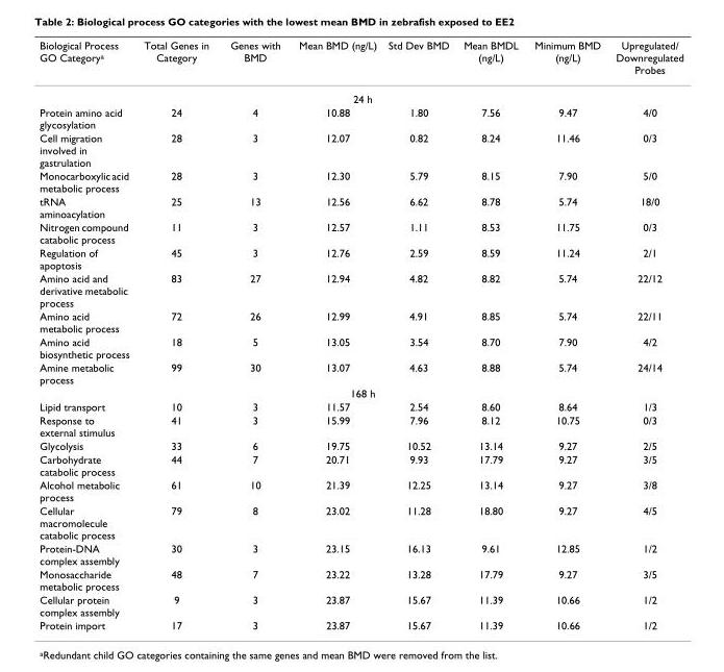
<table><thead><tr><td>Biological Process GO Category<sup>a</sup></td><td>Total Genes in Category</td><td>Genes with BMD</td><td>Mean BMD (ng/L)</td><td>Std Dev BMD</td><td>Mean BMDL (ng/L)</td><td>Minimum BMD (ng/L)</td><td>Upregulated/ Downregulated Probes</td></tr></thead><tbody><tr><td colspan="8">24 h</td></tr><tr><td>Protein amino acid glycosylation</td><td>24</td><td>4</td><td>10.88</td><td>1.80</td><td>7.56</td><td>9.47</td><td>4/0</td></tr><tr><td>Cell migration involved in gastrulation</td><td>28</td><td>3</td><td>12.07</td><td>0.82</td><td>8.24</td><td>11.46</td><td>0/3</td></tr><tr><td>Monocarboxylic acid metabolic process</td><td>28</td><td>3</td><td>12.30</td><td>5.79</td><td>8.15</td><td>7.90</td><td>5/0</td></tr><tr><td>tRNA aminoacylation</td><td>25</td><td>13</td><td>12.56</td><td>6.62</td><td>8.78</td><td>5.74</td><td>18/0</td></tr><tr><td>Nitrogen compound catabolic process</td><td>11</td><td>3</td><td>12.57</td><td>1.11</td><td>8.53</td><td>11.75</td><td>0/3</td></tr><tr><td>Regulation of apoptosis</td><td>45</td><td>3</td><td>12.76</td><td>2.59</td><td>8.59</td><td>11.24</td><td>2/1</td></tr><tr><td>Amino acid and derivative metabolic process</td><td>83</td><td>27</td><td>12.94</td><td>4.82</td><td>8.82</td><td>5.74</td><td>22/12</td></tr><tr><td>Amino acid metabolic process</td><td>72</td><td>26</td><td>12.99</td><td>4.91</td><td>8.85</td><td>5.74</td><td>22/11</td></tr><tr><td>Amino acid biosynthetic process</td><td>18</td><td>5</td><td>13.05</td><td>3.54</td><td>8.70</td><td>7.90</td><td>4/2</td></tr><tr><td>Amine metabolic process</td><td>99</td><td>30</td><td>13.07</td><td>4.63</td><td>8.88</td><td>5.74</td><td>24/14</td></tr><tr><td colspan="8">168 h</td></tr><tr><td>Lipid transport</td><td>10</td><td>3</td><td>11.57</td><td>2.54</td><td>8.60</td><td>8.64</td><td>1/3</td></tr><tr><td>Response to external stimulus</td><td>41</td><td>3</td><td>15.99</td><td>7.96</td><td>8.12</td><td>10.75</td><td>0/3</td></tr><tr><td>Glycolysis</td><td>33</td><td>6</td><td>19.75</td><td>10.52</td><td>13.14</td><td>9.27</td><td>2/5</td></tr><tr><td>Carbohydrate catabolic process</td><td>44</td><td>7</td><td>20.71</td><td>9.93</td><td>17.79</td><td>9.27</td><td>3/5</td></tr><tr><td>Alcohol metabolic process</td><td>61</td><td>10</td><td>21.39</td><td>12.25</td><td>13.14</td><td>9.27</td><td>3/8</td></tr><tr><td>Cellular macromolecule catabolic process</td><td>79</td><td>8</td><td>23.02</td><td>11.28</td><td>18.80</td><td>9.27</td><td>4/5</td></tr><tr><td>Protein-DNA complex assembly</td><td>30</td><td>3</td><td>23.15</td><td>16.13</td><td>9.61</td><td>12.85</td><td>1/2</td></tr><tr><td>Monosaccharide metabolic process</td><td>48</td><td>7</td><td>23.22</td><td>13.28</td><td>17.79</td><td>9.27</td><td>3/5</td></tr><tr><td>Cellular protein complex assembly</td><td>9</td><td>3</td><td>23.87</td><td>15.67</td><td>11.39</td><td>10.66</td><td>1/2</td></tr><tr><td>Protein import</td><td>17</td><td>3</td><td>23.87</td><td>15.67</td><td>11.39</td><td>10.66</td><td>1/2</td></tr></tbody></table>